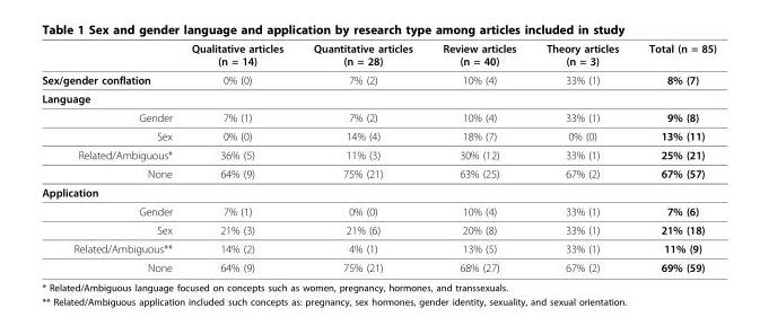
<table><thead><tr><td></td><td>Qualitative articles (n = 14)</td><td>Quantitative articles (n = 28)</td><td>Review articles (n = 40)</td><td>Theory articles (n = 3)</td><td>Total (n = 85)</td></tr></thead><tbody><tr><td>Sex/gender conflation</td><td>0% (0)</td><td>7% (2)</td><td>10% (4)</td><td>33% (1)</td><td>8% (7)</td></tr><tr><td colspan="6">Language</td></tr><tr><td>Gender</td><td>7% (1)</td><td>7% (2)</td><td>10% (4)</td><td>33% (1)</td><td>9% (8)</td></tr><tr><td>Sex</td><td>0% (0)</td><td>14% (4)</td><td>18% (7)</td><td>0% (0)</td><td>13% (11)</td></tr><tr><td>Related/Ambiguous*</td><td>36% (5)</td><td>11% (3)</td><td>30% (12)</td><td>33% (1)</td><td>25% (21)</td></tr><tr><td>None</td><td>64% (9)</td><td>75% (21)</td><td>63% (25)</td><td>67% (2)</td><td>67% (57)</td></tr><tr><td colspan="6">Application</td></tr><tr><td>Gender</td><td>7% (1)</td><td>0% (0)</td><td>10% (4)</td><td>33% (1)</td><td>7% (6)</td></tr><tr><td>Sex</td><td>21% (3)</td><td>21% (6)</td><td>20% (8)</td><td>33% (1)</td><td>21% (18)</td></tr><tr><td>Related/Ambiguous**</td><td>14% (2)</td><td>4% (1)</td><td>13% (5)</td><td>33% (1)</td><td>11% (9)</td></tr><tr><td>None</td><td>64% (9)</td><td>75% (21)</td><td>68% (27)</td><td>67% (2)</td><td>69% (59)</td></tr></tbody></table>